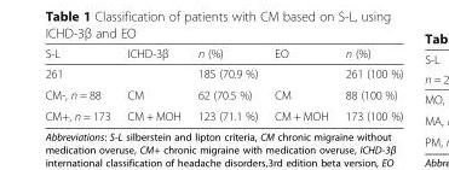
<table><thead><tr><td>S-L</td><td>ICHD-3β</td><td>n (%)</td><td>EO</td><td>n (%)</td></tr></thead><tbody><tr><td>261</td><td></td><td>185 (70.9 %)</td><td></td><td>261 (100 %)</td></tr><tr><td>CM-, n = 88</td><td>CM</td><td>62 (70.5 %)</td><td>CM</td><td>88 (100 %)</td></tr><tr><td>CM+, n = 173</td><td>CM + MOH</td><td>123 (71.1 %)</td><td>CM + MOH</td><td>173 (100 %)</td></tr></tbody></table>